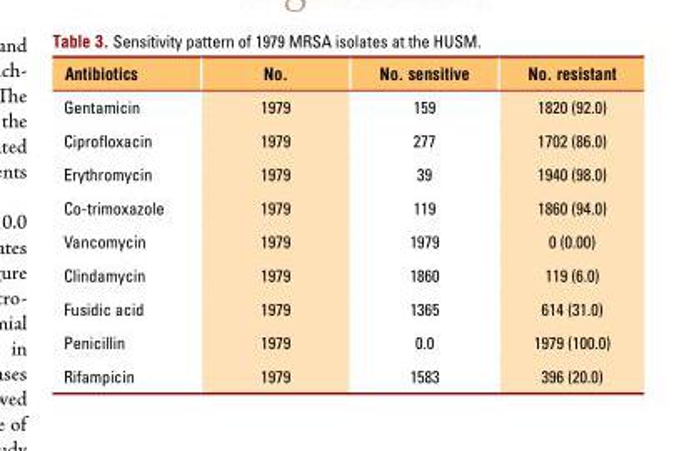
<table><thead><tr><td rowspan="10">Antibiotics Gentamicin Ciprofloxacin Erythromycin Co-trimoxazole Vancomycin Clindamycin Fusidic acid Penicillin Rifampicin</td><td rowspan="10">No. 1979 1979 1979 1979 1979 1979 1979 1979 1979</td><td rowspan="10">No. sensitive 159 277 39 119 1979 1860 1365 0.0 1583</td><td rowspan="10">No. resistant 1820 (92.0) 1702 (86.0) 1940 (98.0) 1860 (94.0) 0 (0.00) 119 (6.0) 614 (31.0) 1979 (100.0) 396 (20.0)</td></tr><tr></tr><tr></tr><tr></tr><tr></tr><tr></tr><tr></tr><tr></tr><tr></tr><tr></tr></thead><tbody></tbody></table>